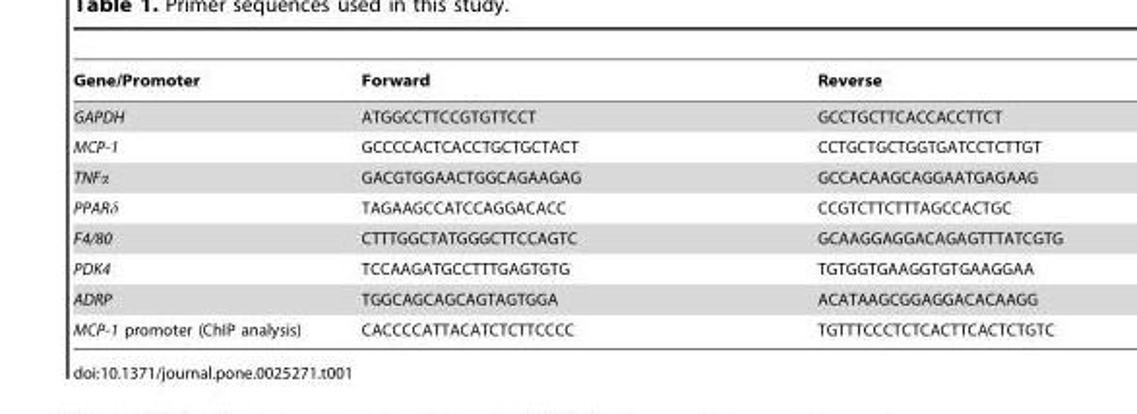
<table><thead><tr><td>Gene/Promoter</td><td>Forward</td><td>Reverse</td></tr></thead><tbody><tr><td>GAPDH</td><td>ATGGCCTTCCGTGTTCCT</td><td>GCCTGCTTCACCACCTTCT</td></tr><tr><td>MCP-1</td><td>GCCCCACTCACCTGCTGCTACT</td><td>CCTGCTGCTGGTGATCCTCTTGT</td></tr><tr><td>TNFα</td><td>GACGTGGAACTGGCAGAAGAG</td><td>GCCACAAGCAGGAATGAGAAG</td></tr><tr><td>PPARδ</td><td>TAGAAGCCATCCAGGACACC</td><td>CCGTCTTCTTTAGCCACTGC</td></tr><tr><td>F4/80</td><td>CTTTGGCTATGGGCTTCCAGTC</td><td>GCAAGGAGGACAGAGTTTATCGTG</td></tr><tr><td>PDK4</td><td>TCCAAGATGCCTTTGAGTGTG</td><td>TGTGGTGAAGGTGTGAAGGAA</td></tr><tr><td>ADRP</td><td>TGGCAGCAGCAGTAGTGGA</td><td>ACATAAGCGGAGGACACAAGG</td></tr><tr><td>MCP-1 promoter (ChIP analysis)</td><td>CACCCCATTACATCTCTTCCCC</td><td>TGTTTCCCTCTCACTTCACTCTGTC</td></tr></tbody></table>